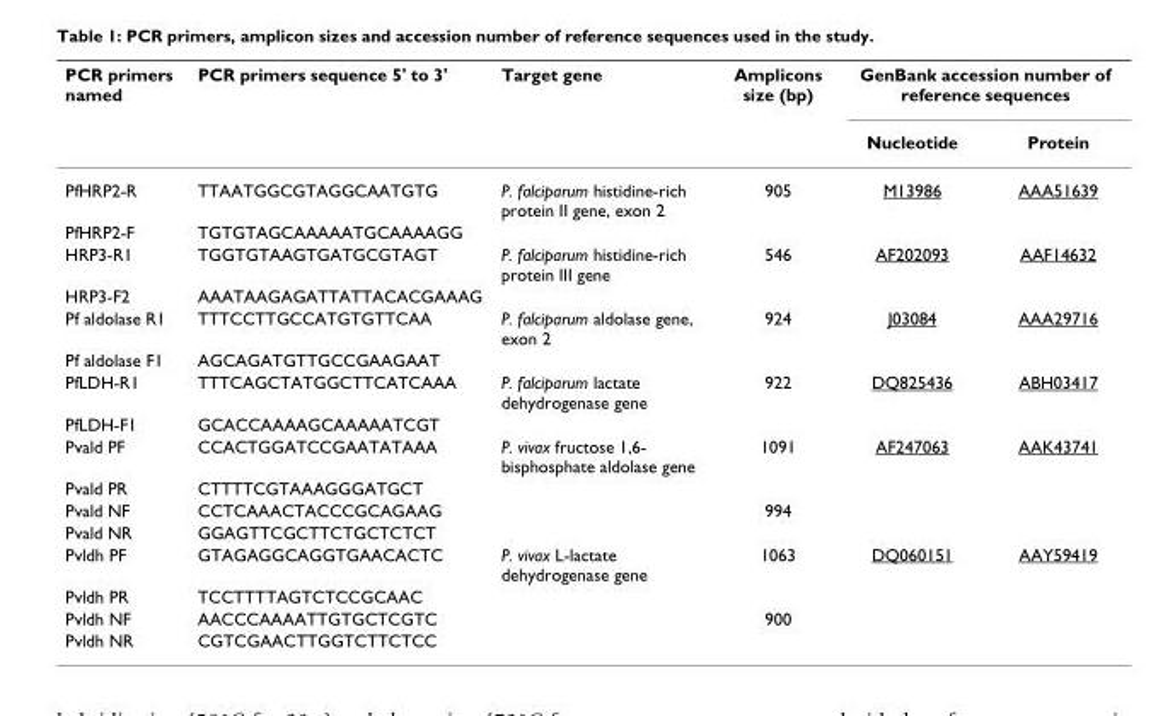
<table><thead><tr><td rowspan="2">PCR primers named</td><td rowspan="2">PCR primers sequence 5&#x27; to 3&#x27;</td><td rowspan="2">Target gene</td><td rowspan="2">Amplicons size (bp)</td><td colspan="2">GenBank accession number of reference sequences</td></tr><tr><td>Nucleotide</td><td>Protein</td></tr></thead><tbody><tr><td>PfHRP2-R</td><td>TTAATGGCGTAGGCAATGTG</td><td>P. falciparum histidine-rich protein II gene, exon 2</td><td>905</td><td>M13986</td><td>AAA51639</td></tr><tr><td>PfHRP2-F</td><td>TGTGTAGCAAAAATGCAAAAGG</td><td></td><td></td><td></td><td></td></tr><tr><td>HRP3-R1</td><td>TGGTGTAAGTGATGCGTAGT</td><td>P. falciparum histidine-rich protein III gene</td><td>546</td><td>AF202093</td><td>AAF14632</td></tr><tr><td>HRP3-F2</td><td>AAATAAGAGATTATTACACGAAAG</td><td></td><td></td><td></td><td></td></tr><tr><td>Pf aldolase R1</td><td>TTTCCTTGCCATGTGTTCAA</td><td>P. falciparum aldolase gene, exon 2</td><td>924</td><td>J03084</td><td>AAA29716</td></tr><tr><td>Pf aldolase F1</td><td>AGCAGATGTTGCCGAAGAAT</td><td></td><td></td><td></td><td></td></tr><tr><td>PfLDH-R1</td><td>TTTCAGCTATGGCTTCATCAAA</td><td>P. falciparum lactate dehydrogenase gene</td><td>922</td><td>DQ825436</td><td>ABH03417</td></tr><tr><td>PfLDH-F1</td><td>GCACCAAAAGCAAAAATCGT</td><td></td><td></td><td></td><td></td></tr><tr><td>Pvald PF</td><td>CCACTGGATCCGAATATAAA</td><td>P. vivax fructose 1,6- bisphosphate aldolase gene</td><td>1091</td><td>AF247063</td><td>AAK43741</td></tr><tr><td>Pvald PR</td><td>CTTTTCGTAAAGGGATGCT</td><td></td><td></td><td></td><td></td></tr><tr><td>Pvald NF</td><td>CCTCAAACTACCCGCAGAAG</td><td></td><td>994</td><td></td><td></td></tr><tr><td>Pvald NR</td><td>GGAGTTCGCTTCTGCTCTCT</td><td></td><td></td><td></td><td></td></tr><tr><td>Pvldh PF</td><td>GTAGAGGCAGGTGAACACTC</td><td>P. vivax L-lactate dehydrogenase gene</td><td>1063</td><td>DQ060151</td><td>AAY59419</td></tr><tr><td>Pvldh PR</td><td>TCCTTTTAGTCTCCGCAAC</td><td></td><td></td><td></td><td></td></tr><tr><td>Pvldh NF</td><td>AACCCAAAATTGTGCTCGTC</td><td></td><td>900</td><td></td><td></td></tr><tr><td>Pvldh NR</td><td>CGTCGAACTTGGTCTTCTCC</td><td></td><td></td><td></td><td></td></tr></tbody></table>